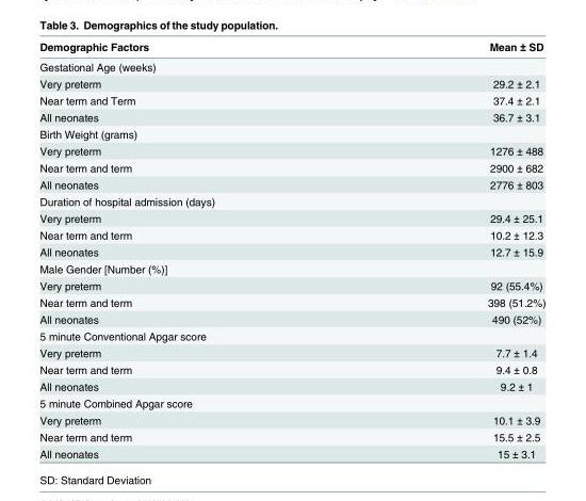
<table><thead><tr><td>Demographic Factors</td><td>Mean ± SD</td></tr></thead><tbody><tr><td colspan="2">Gestational Age (weeks)</td></tr><tr><td>Very preterm</td><td>29.2 ± 2.1</td></tr><tr><td>Near term and Term</td><td>37.4 ± 2.1</td></tr><tr><td>All neonates</td><td>36.7 ± 3.1</td></tr><tr><td colspan="2">Birth Weight (grams)</td></tr><tr><td>Very preterm</td><td>1276 ± 488</td></tr><tr><td>Near term and term</td><td>2900 ± 682</td></tr><tr><td>All neonates</td><td>2776 ± 803</td></tr><tr><td colspan="2">Duration of hospital admission (days)</td></tr><tr><td>Very preterm</td><td>29.4 ± 25.1</td></tr><tr><td>Near term and term</td><td>10.2 ± 12.3</td></tr><tr><td>All neonates</td><td>12.7 ± 15.9</td></tr><tr><td colspan="2">Male Gender [Number (%)]</td></tr><tr><td>Very preterm</td><td>92 (55.4%)</td></tr><tr><td>Near term and term</td><td>398 (51.2%)</td></tr><tr><td>All neonates</td><td>490 (52%)</td></tr><tr><td colspan="2">5 minute Conventional Apgar score</td></tr><tr><td>Very preterm</td><td>7.7 ± 1.4</td></tr><tr><td>Near term and term</td><td>9.4 ± 0.8</td></tr><tr><td>All neonates</td><td>9.2 ± 1</td></tr><tr><td colspan="2">5 minute Combined Apgar score</td></tr><tr><td>Very preterm</td><td>10.1 ± 3.9</td></tr><tr><td>Near term and term</td><td>15.5 ± 2.5</td></tr><tr><td>All neonates</td><td>15 ± 3.1</td></tr></tbody></table>